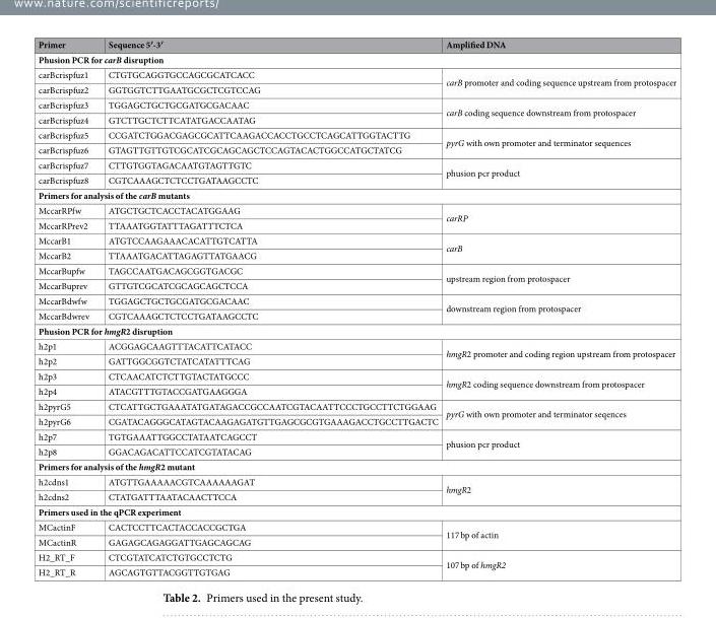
<table><thead><tr><td>Primer</td><td>Sequence 5′-3′</td><td>Amplified DNA</td></tr></thead><tbody><tr><td colspan="3">Phusion PCR for carB disruption</td></tr><tr><td>carBcrispfuz1</td><td>CTGTGCAGGTGCCAGCGCATCACC</td><td rowspan="2">carB promoter and coding sequence upstream from protospacer</td></tr><tr><td>carBcrispfuz2</td><td>GGTGGTCTTGAATGCGCTCGTCCAG</td></tr><tr><td>carBcrispfuz3</td><td>TGGAGCTGCTGCGATGCGACAAC</td><td rowspan="2">carB coding sequence downstream from protospacer</td></tr><tr><td>carBcrispfuz4</td><td>GTCTTGCTCTTCATATGACCAATAG</td></tr><tr><td>carBcrispfuz5</td><td>CCGATCTGGACGAGCGCATTCAAGACCACCTGCCTCAGCATTGGTACTTG</td><td rowspan="2">pyrG with own promoter and terminator sequences</td></tr><tr><td>carBcrispfuz6</td><td>GTAGTTGTTGTCGCATCGCAGCAGCTCCAGTACACTGGCCATGCTATCG</td></tr><tr><td>carBcrispfuz7</td><td>CTTGTGGTAGACAATGTAGTTGTC</td><td rowspan="2">phusion pcr product</td></tr><tr><td>carBcrispfuz8</td><td>CGTCAAAGCTCTCCTGATAAGCCTC</td></tr><tr><td colspan="3">Primers for analysis of the carB mutants</td></tr><tr><td>MccarRPfw</td><td>ATGCTGCTCACCTACATGGAAG</td><td rowspan="2">carRP</td></tr><tr><td>MccarRPrev2</td><td>TTAAATGGTATTTAGATTTCTCA</td></tr><tr><td>MccarB1</td><td>ATGTCCAAGAAACACATTGTCATTA</td><td rowspan="2">carB</td></tr><tr><td>MccarB2</td><td>TTAAATGACATTAGAGTTATGAACG</td></tr><tr><td>MccarBupfw</td><td>TAGCCAATGACAGCGGTGACGC</td><td rowspan="2">upstream region from protospacer</td></tr><tr><td>MccarBuprev</td><td>GTTGTCGCATCGCAGCAGCTCCA</td></tr><tr><td>MccarBdwfw</td><td>TGGAGCTGCTGCGATGCGACAAC</td><td rowspan="2">downstream region from protospacer</td></tr><tr><td>MccarBdwrev</td><td>CGTCAAAGCTCTCCTGATAAGCCTC</td></tr><tr><td colspan="3">Phusion PCR for hmgR2 disruption</td></tr><tr><td>h2p1</td><td>ACGGAGCAAGTTTACATTCATACC</td><td rowspan="2">hmgR2 promoter and coding region upstream from protospacer</td></tr><tr><td>h2p2</td><td>GATTGGCGGTCTATCATATTTCAG</td></tr><tr><td>h2p3</td><td>CTCAACATCTCTTGTACTATGCCC</td><td rowspan="2">hmgR2 coding sequence downstream from protospacer</td></tr><tr><td>h2p4</td><td>ATACGTTTGTACCGATGAAGGGA</td></tr><tr><td>h2pyrG5</td><td>CTCATTGCTGAAATATGATAGACCGCCAATCGTACAATTCCCTGCCTTCTGGAAG</td><td rowspan="2">pyrG with own promoter and terminator seqences</td></tr><tr><td>h2pyrG6</td><td>CGATACAGGGCATAGTACAAGAGATGTTGAGCGCGTGAAAGACCTGCCTTGACTC</td></tr><tr><td>h2p7</td><td>TGTGAAATTGGCCTATAATCAGCCT</td><td rowspan="2">phusion pcr product</td></tr><tr><td>h2p8</td><td>GGACAGACATTCCATCGTATACAG</td></tr><tr><td colspan="3">Primers for analysis of the hmgR2 mutant</td></tr><tr><td>h2cdns1</td><td>ATGTTGAAAAACGTCAAAAAAGAT</td><td rowspan="2">hmgR2</td></tr><tr><td>h2cdns2</td><td>CTATGATTTAATACAACTTCCA</td></tr><tr><td colspan="3">Primers used in the qPCR experiment</td></tr><tr><td>MCactinF</td><td>CACTCCTTCACTACCACCGCTGA</td><td rowspan="2">117 bp of actin</td></tr><tr><td>MCactinR</td><td>GAGAGCAGAGGATTGAGCAGCAG</td></tr><tr><td>H2_RT_F</td><td>CTCGTATCATCTGTGCCTCTG</td><td rowspan="2">107 bp of hmgR2</td></tr><tr><td>H2_RT_R</td><td>AGCAGTGTTACGGTTGTGAG</td></tr></tbody></table>